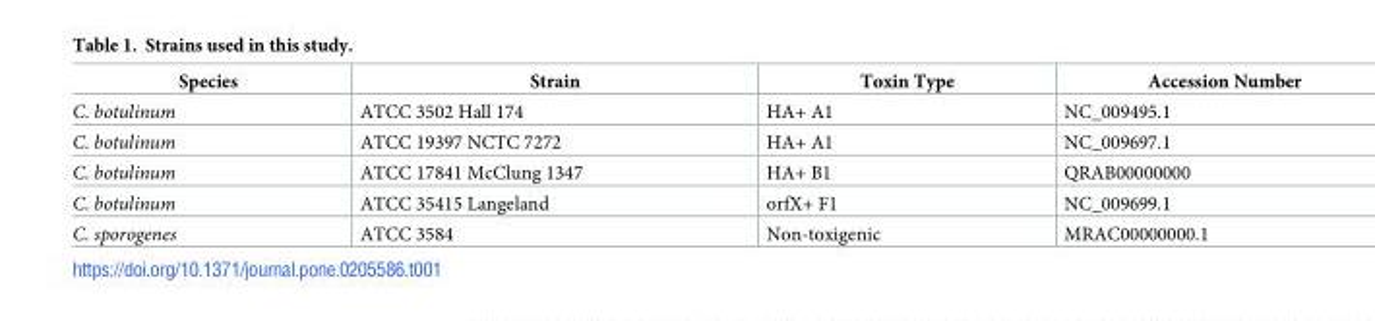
<table><thead><tr><td>Species</td><td>Strain</td><td>Toxin Type</td><td>Accession Number</td></tr></thead><tbody><tr><td>C. botulinum</td><td>ATCC 3502 Hall 174</td><td>HA+ A1</td><td>NC_009495.1</td></tr><tr><td>C. botulinum</td><td>ATCC 19397 NCTC 7272</td><td>HA+ A1</td><td>NC_009697.1</td></tr><tr><td>C. botulinum</td><td>ATCC 17841 McClung 1347</td><td>HA+ B1</td><td>QRAB00000000</td></tr><tr><td>C. botulinum</td><td>ATCC 35415 Langeland</td><td>orfX+ F1</td><td>NC_009699.1</td></tr><tr><td>C. sporogenes</td><td>ATCC 3584</td><td>Non-toxigenic</td><td>MRAC00000000.1</td></tr></tbody></table>